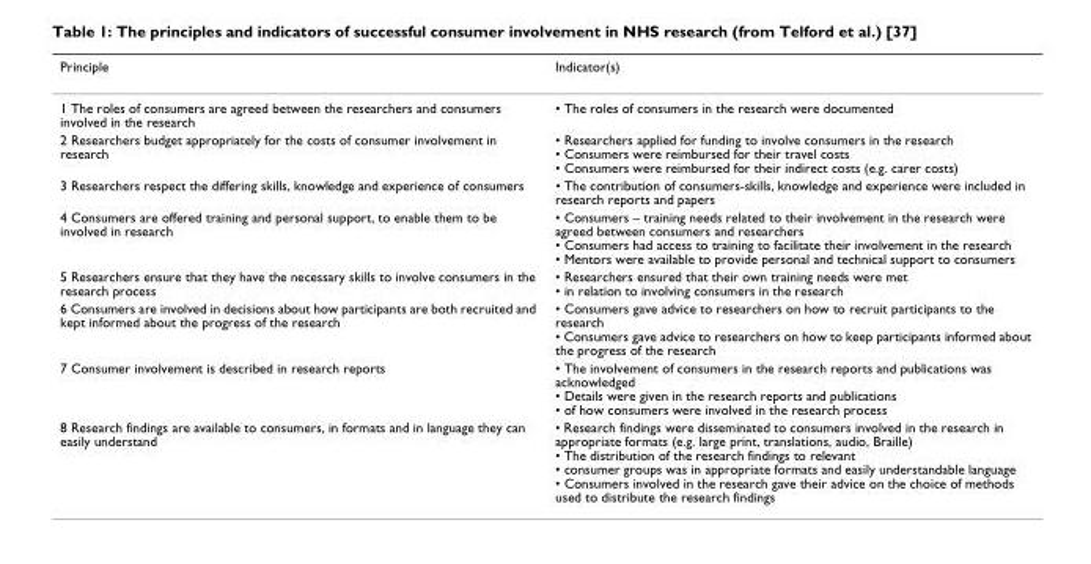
<table><thead><tr><td>Principle</td><td>Indicator(s)</td></tr></thead><tbody><tr><td>1 The roles of consumers are agreed between the researchers and consumers involved in the research</td><td>• The roles of consumers in the research were documented</td></tr><tr><td>2 Researchers budget appropriately for the costs of consumer involvement in research</td><td>• Researchers applied for funding to involve consumers in the research • Consumers were reimbursed for their travel costs • Consumers were reimbursed for their indirect costs (e.g. carer costs)</td></tr><tr><td>3 Researchers respect the differing skills, knowledge and experience of consumers</td><td>• The contribution of consumers-skills, knowledge and experience were included in research reports and papers</td></tr><tr><td>4 Consumers are offered training and personal support, to enable them to be involved in research</td><td>• Consumers – training needs related to their involvement in the research were agreed between consumers and researchers • Consumers had access to training to facilitate their involvement in the research • Mentors were available to provide personal and technical support to consumers</td></tr><tr><td>5 Researchers ensure that they have the necessary skills to involve consumers in the research process</td><td>• Researchers ensured that their own training needs were met • in relation to involving consumers in the research</td></tr><tr><td>6 Consumers are involved in decisions about how participants are both recruited and kept informed about the progress of the research</td><td>• Consumers gave advice to researchers on how to recruit participants to the research • Consumers gave advice to researchers on how to keep participants informed about the progress of the research</td></tr><tr><td>7 Consumer involvement is described in research reports</td><td>• The involvement of consumers in the research reports and publications was acknowledged • Details were given in the research reports and publications • of how consumers were involved in the research process</td></tr><tr><td>8 Research findings are available to consumers, in formats and in language they can easily understand</td><td>• Research findings were disseminated to consumers involved in the research in appropriate formats (e.g. large print, translations, audio, Braille) • The distribution of the research findings to relevant • consumer groups was in appropriate formats and easily understandable language • Consumers involved in the research gave their advice on the choice of methods used to distribute the research findings</td></tr></tbody></table>